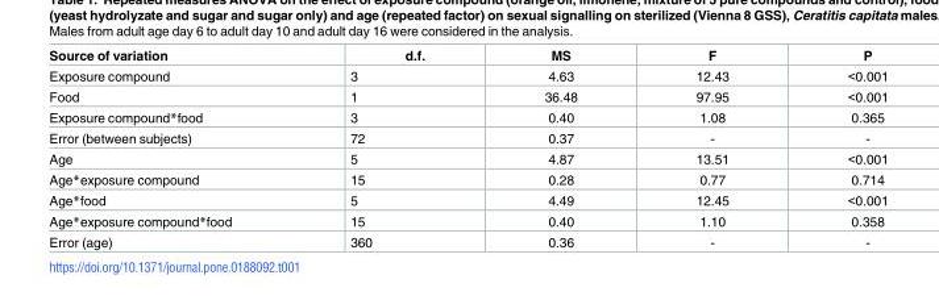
<table><thead><tr><td>Source of variation</td><td>d.f.</td><td>MS</td><td>F</td><td>P</td></tr></thead><tbody><tr><td>Exposure compound</td><td>3</td><td>4.63</td><td>12.43</td><td>&lt;0.001</td></tr><tr><td>Food</td><td>1</td><td>36.48</td><td>97.95</td><td>&lt;0.001</td></tr><tr><td>Exposure compound*food</td><td>3</td><td>0.40</td><td>1.08</td><td>0.365</td></tr><tr><td>Error (between subjects)</td><td>72</td><td>0.37</td><td>-</td><td>-</td></tr><tr><td>Age</td><td>5</td><td>4.87</td><td>13.51</td><td>&lt;0.001</td></tr><tr><td>Age*exposure compound</td><td>15</td><td>0.28</td><td>0.77</td><td>0.714</td></tr><tr><td>Age*food</td><td>5</td><td>4.49</td><td>12.45</td><td>&lt;0.001</td></tr><tr><td>Age*exposure compound*food</td><td>15</td><td>0.40</td><td>1.10</td><td>0.358</td></tr><tr><td>Error (age)</td><td>360</td><td>0.36</td><td>-</td><td>-</td></tr></tbody></table>